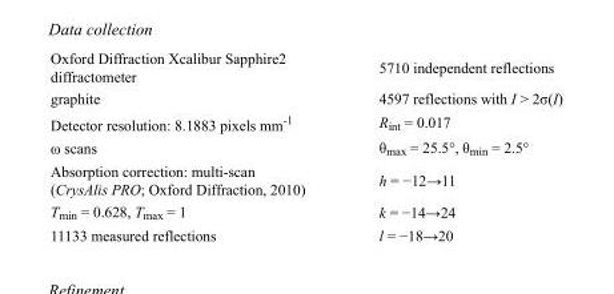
<table><tbody><tr><td>Oxford Diffraction Xcalibur Sapphire2 diffractometer</td><td>5710 independent reflections</td></tr><tr><td>graphite</td><td>4597 reflections with I &gt; 2σ(I)</td></tr><tr><td>Detector resolution: 8.1883 pixels mm<sup>-1</sup></td><td>R<sub>int</sub> = 0.017</td></tr><tr><td>ω scans</td><td>θ<sub>max</sub> = 25.5°, θ<sub>min</sub> = 2.5°</td></tr><tr><td>Absorption correction: multi-scan (CrysAlis PRO; Oxford Diffraction, 2010)</td><td>h = −12→11</td></tr><tr><td>T<sub>min</sub> = 0.628, T<sub>max</sub> = 1</td><td>k = −14→24</td></tr><tr><td>11133 measured reflections</td><td>l = −18→20</td></tr></tbody></table>